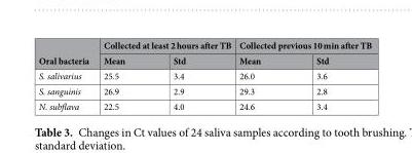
<table><thead><tr><td rowspan="2">Oral bacteria</td><td colspan="2">Collected at least 2 hours after TB</td><td colspan="2">Collected previous 10 min after TB</td></tr><tr><td>Mean</td><td>Std</td><td>Mean</td><td>Std</td></tr></thead><tbody><tr><td>S. salivarius</td><td>25.5</td><td>3.4</td><td>26.0</td><td>3.6</td></tr><tr><td>S. sanguinis</td><td>26.9</td><td>2.9</td><td>29.3</td><td>2.8</td></tr><tr><td>N. subflava</td><td>22.5</td><td>4.0</td><td>24.6</td><td>3.4</td></tr></tbody></table>